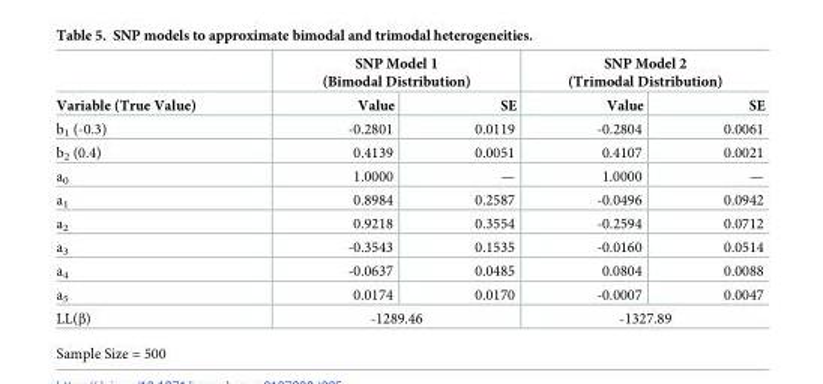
<table><thead><tr><td rowspan="2">Variable (True Value)</td><td colspan="2">SNP Model 1 (Bimodal Distribution)</td><td colspan="2">SNP Model 2 (Trimodal Distribution)</td></tr><tr><td>Value</td><td>SE</td><td>Value</td><td>SE</td></tr></thead><tbody><tr><td>b<sub>1</sub> (-0.3)</td><td>-0.2801</td><td>0.0119</td><td>-0.2804</td><td>0.0061</td></tr><tr><td>b<sub>2</sub> (0.4)</td><td>0.4139</td><td>0.0051</td><td>0.4107</td><td>0.0021</td></tr><tr><td>a<sub>0</sub></td><td>1.0000</td><td>—</td><td>1.0000</td><td>—</td></tr><tr><td>a<sub>1</sub></td><td>0.8984</td><td>0.2587</td><td>-0.0496</td><td>0.0942</td></tr><tr><td>a<sub>2</sub></td><td>0.9218</td><td>0.3554</td><td>-0.2594</td><td>0.0712</td></tr><tr><td>a<sub>3</sub></td><td>-0.3543</td><td>0.1535</td><td>-0.0160</td><td>0.0514</td></tr><tr><td>a<sub>4</sub></td><td>-0.0637</td><td>0.0485</td><td>0.0804</td><td>0.0088</td></tr><tr><td>a<sub>5</sub></td><td>0.0174</td><td>0.0170</td><td>-0.0007</td><td>0.0047</td></tr><tr><td>LL(β)</td><td colspan="2">-1289.46</td><td colspan="2">-1327.89</td></tr></tbody></table>